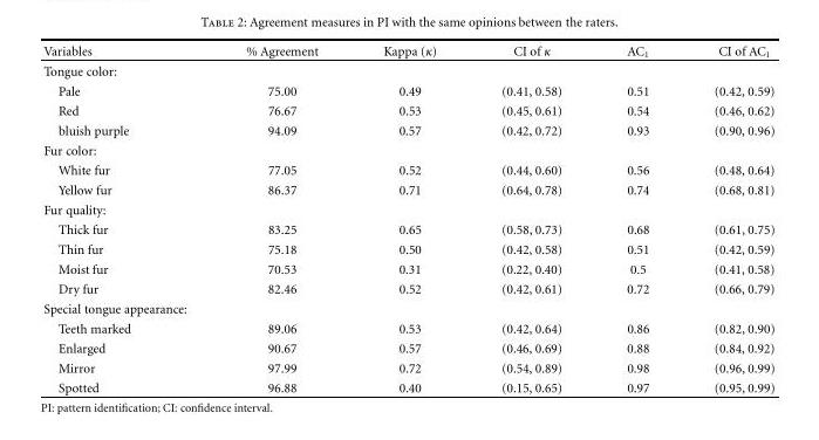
<table><thead><tr><td>Variables</td><td>% Agreement</td><td>Kappa (κ)</td><td>CI of κ</td><td>AC<sub>1</sub></td><td>CI of AC<sub>1</sub></td></tr></thead><tbody><tr><td colspan="6">Tongue color:</td></tr><tr><td>Pale</td><td>75.00</td><td>0.49</td><td>(0.41, 0.58)</td><td>0.51</td><td>(0.42, 0.59)</td></tr><tr><td>Red</td><td>76.67</td><td>0.53</td><td>(0.45, 0.61)</td><td>0.54</td><td>(0.46, 0.62)</td></tr><tr><td>bluish purple</td><td>94.09</td><td>0.57</td><td>(0.42, 0.72)</td><td>0.93</td><td>(0.90, 0.96)</td></tr><tr><td colspan="6">Fur color:</td></tr><tr><td>White fur</td><td>77.05</td><td>0.52</td><td>(0.44, 0.60)</td><td>0.56</td><td>(0.48, 0.64)</td></tr><tr><td>Yellow fur</td><td>86.37</td><td>0.71</td><td>(0.64, 0.78)</td><td>0.74</td><td>(0.68, 0.81)</td></tr><tr><td colspan="6">Fur quality:</td></tr><tr><td>Thick fur</td><td>83.25</td><td>0.65</td><td>(0.58, 0.73)</td><td>0.68</td><td>(0.61, 0.75)</td></tr><tr><td>Thin fur</td><td>75.18</td><td>0.50</td><td>(0.42, 0.58)</td><td>0.51</td><td>(0.42, 0.59)</td></tr><tr><td>Moist fur</td><td>70.53</td><td>0.31</td><td>(0.22, 0.40)</td><td>0.5</td><td>(0.41, 0.58)</td></tr><tr><td>Dry fur</td><td>82.46</td><td>0.52</td><td>(0.42, 0.61)</td><td>0.72</td><td>(0.66, 0.79)</td></tr><tr><td colspan="6">Special tongue appearance:</td></tr><tr><td>Teeth marked</td><td>89.06</td><td>0.53</td><td>(0.42, 0.64)</td><td>0.86</td><td>(0.82, 0.90)</td></tr><tr><td>Enlarged</td><td>90.67</td><td>0.57</td><td>(0.46, 0.69)</td><td>0.88</td><td>(0.84, 0.92)</td></tr><tr><td>Mirror</td><td>97.99</td><td>0.72</td><td>(0.54, 0.89)</td><td>0.98</td><td>(0.96, 0.99)</td></tr><tr><td>Spotted</td><td>96.88</td><td>0.40</td><td>(0.15, 0.65)</td><td>0.97</td><td>(0.95, 0.99)</td></tr></tbody></table>